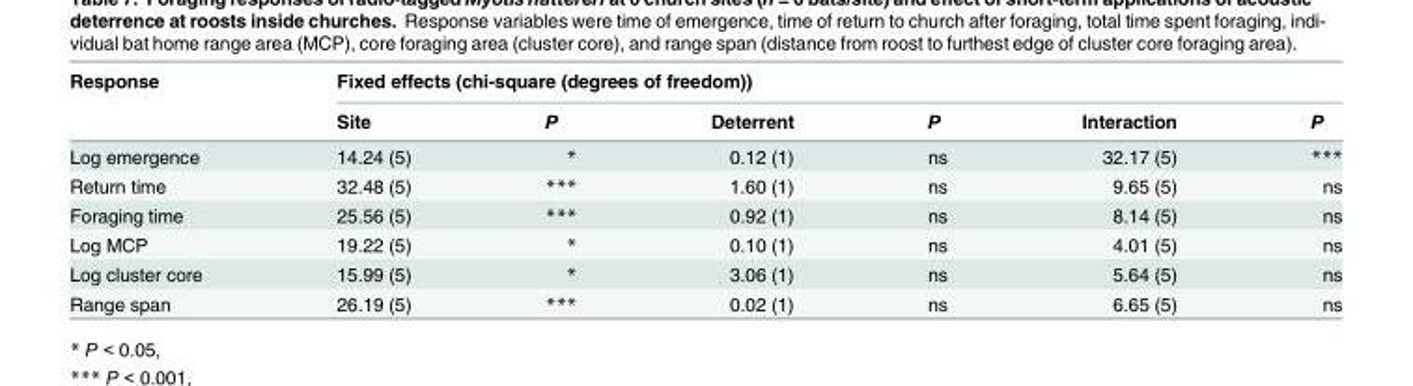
<table><thead><tr><td rowspan="2">Response</td><td colspan="6">Fixed effects (chi-square (degrees of freedom))</td></tr><tr><td>Site</td><td>P</td><td>Deterrent</td><td>P</td><td>Interaction</td><td>P</td></tr></thead><tbody><tr><td>Log emergence</td><td>14.24 (5)</td><td>*</td><td>0.12 (1)</td><td>ns</td><td>32.17 (5)</td><td>***</td></tr><tr><td>Return time</td><td>32.48 (5)</td><td>***</td><td>1.60 (1)</td><td>ns</td><td>9.65 (5)</td><td>ns</td></tr><tr><td>Foraging time</td><td>25.56 (5)</td><td>***</td><td>0.92 (1)</td><td>ns</td><td>8.14 (5)</td><td>ns</td></tr><tr><td>Log MCP</td><td>19.22 (5)</td><td>*</td><td>0.10 (1)</td><td>ns</td><td>4.01 (5)</td><td>ns</td></tr><tr><td>Log cluster core</td><td>15.99 (5)</td><td>*</td><td>3.06 (1)</td><td>ns</td><td>5.64 (5)</td><td>ns</td></tr><tr><td>Range span</td><td>26.19 (5)</td><td>***</td><td>0.02 (1)</td><td>ns</td><td>6.65 (5)</td><td>ns</td></tr></tbody></table>